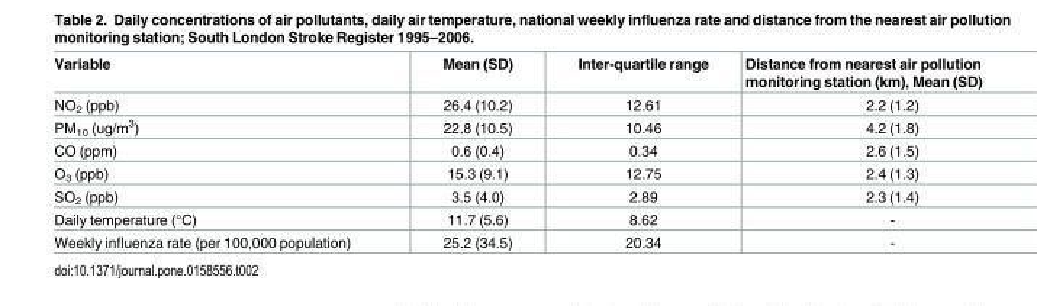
<table><thead><tr><td>Variable</td><td>Mean (SD)</td><td>Inter-quartile range</td><td>Distance from nearest air pollution monitoring station (km), Mean (SD)</td></tr></thead><tbody><tr><td>NO<sub>2</sub> (ppb)</td><td>26.4 (10.2)</td><td>12.61</td><td>2.2 (1.2)</td></tr><tr><td>PM<sub>10</sub> (ug/m<sup>3</sup>)</td><td>22.8 (10.5)</td><td>10.46</td><td>4.2 (1.8)</td></tr><tr><td>CO (ppm)</td><td>0.6 (0.4)</td><td>0.34</td><td>2.6 (1.5)</td></tr><tr><td>O<sub>3</sub> (ppb)</td><td>15.3 (9.1)</td><td>12.75</td><td>2.4 (1.3)</td></tr><tr><td>SO<sub>2</sub> (ppb)</td><td>3.5 (4.0)</td><td>2.89</td><td>2.3 (1.4)</td></tr><tr><td>Daily temperature (°C)</td><td>11.7 (5.6)</td><td>8.62</td><td>-</td></tr><tr><td>Weekly influenza rate (per 100,000 population)</td><td>25.2 (34.5)</td><td>20.34</td><td>-</td></tr></tbody></table>